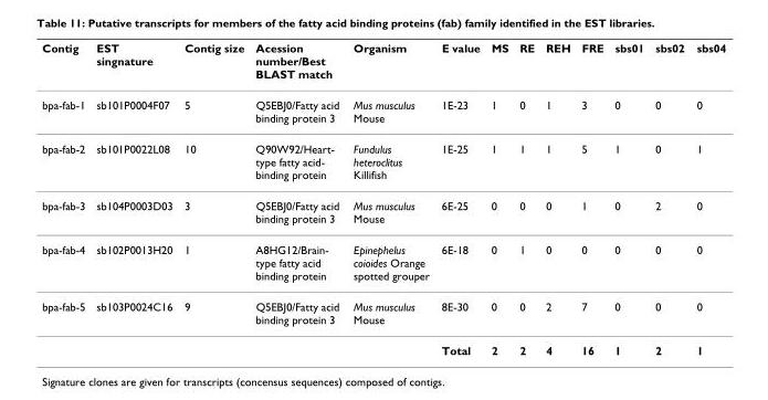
<table><thead><tr><td>Contig</td><td>EST singnature</td><td>Contig size</td><td>Acession number/Best BLAST match</td><td>Organism</td><td>E value</td><td>MS</td><td>RE</td><td>REH</td><td>FRE</td><td>sbs01</td><td>sbs02</td><td>sbs04</td></tr></thead><tbody><tr><td>bpa-fab-1</td><td>sb101P0004F07</td><td>5</td><td>Q5EBJ0/Fatty acid binding protein 3</td><td>Mus musculus Mouse</td><td>1E-23</td><td>1</td><td>0</td><td>1</td><td>3</td><td>0</td><td>0</td><td>0</td></tr><tr><td>bpa-fab-2</td><td>sb101P0022L08</td><td>10</td><td>Q90W92/Heart- type fatty acid- binding protein</td><td>Fundulus heteroclitus Killifish</td><td>1E-25</td><td>1</td><td>1</td><td>1</td><td>5</td><td>1</td><td>0</td><td>1</td></tr><tr><td>bpa-fab-3</td><td>sb104P0003D03</td><td>3</td><td>Q5EBJ0/Fatty acid binding protein 3</td><td>Mus musculus Mouse</td><td>6E-25</td><td>0</td><td>0</td><td>0</td><td>1</td><td>0</td><td>2</td><td>0</td></tr><tr><td>bpa-fab-4</td><td>sb102P0013H20</td><td>1</td><td>A8HG12/Brain- type fatty acid binding protein</td><td>Epinephelus coioides Orange spotted grouper</td><td>6E-18</td><td>0</td><td>1</td><td>0</td><td>0</td><td>0</td><td>0</td><td>0</td></tr><tr><td rowspan="2">bpa-fab-5</td><td>sb103P0024C16</td><td>9</td><td>Q5EBJ0/Fatty acid binding protein 3</td><td>Mus musculus Mouse</td><td>8E-30</td><td>0</td><td>0</td><td>2</td><td>7</td><td>0</td><td>0</td><td>0</td></tr><tr><td></td><td></td><td></td><td></td><td>Total</td><td>2</td><td>2</td><td>4</td><td>16</td><td>1</td><td>2</td><td>1</td></tr></tbody></table>